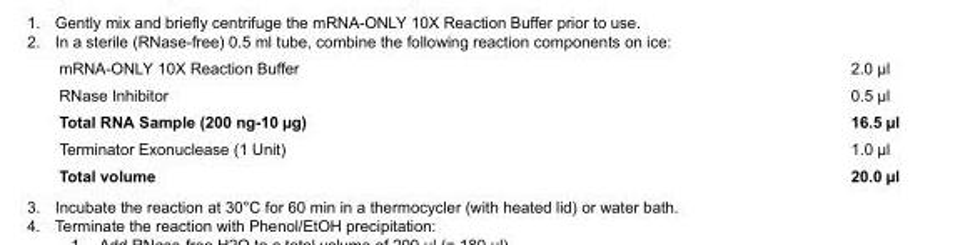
<table><tbody><tr><td>mRNA-ONLY 10X Reaction Buffer</td><td>2.0 µl</td></tr><tr><td>RNase Inhibitor</td><td>0.5 µl</td></tr><tr><td>Total RNA Sample (200 ng-10 µg)</td><td>16.5 µl</td></tr><tr><td>Terminator Exonuclease (1 Unit)</td><td>1.0 µl</td></tr><tr><td>Total volume</td><td>20.0 µl</td></tr></tbody></table>